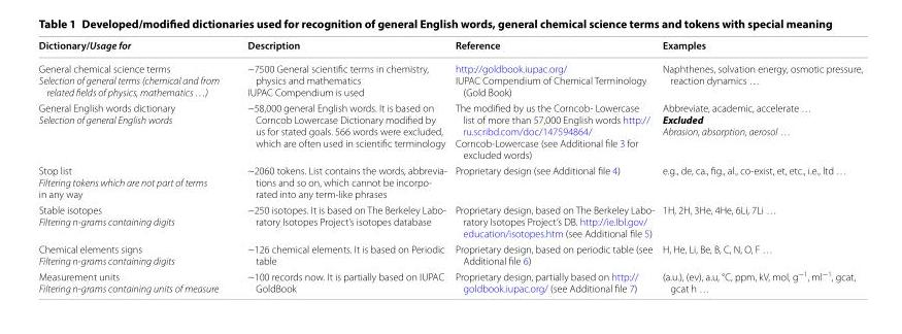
<table><thead><tr><td>Dictionary/Usage for</td><td>Description</td><td>Reference</td><td>Examples</td></tr></thead><tbody><tr><td>General chemical science terms Selection of general terms (chemical and from related fields of physics, mathematics …)</td><td>~7500 General scientific terms in chemistry, physics and mathematics IUPAC Compendium is used</td><td>http://goldbook.iupac.org/ IUPAC Compendium of Chemical Terminology (Gold Book)</td><td>Naphthenes, solvation energy, osmotic pressure, reaction dynamics …</td></tr><tr><td>General English words dictionary Selection of general English words</td><td>~58,000 general English words. It is based on Corncob Lowercase Dictionary modified by us for stated goals. 566 words were excluded, which are often used in scientific terminology</td><td>The modified by us the Corncob- Lowercase list of more than 57,000 English words http:// ru.scribd.com/doc/147594864/ Corncob-Lowercase (see Additional file 3 for excluded words)</td><td>Abbreviate, academic, accelerate … Excluded Abrasion, absorption, aerosol …</td></tr><tr><td>Stop list Filtering tokens which are not part of terms in any way</td><td>~2060 tokens. List contains the words, abbrevia- tions and so on, which cannot be incorpo- rated into any term-like phrases</td><td>Proprietary design (see Additional file 4)</td><td>e.g., de, ca., fig., al., co-exist, et, etc., i.e., ltd …</td></tr><tr><td>Stable isotopes Filtering n-grams containing digits</td><td>~250 isotopes. It is based on The Berkeley Labo- ratory Isotopes Project’s isotopes database</td><td>Proprietary design, based on The Berkeley Labo- ratory Isotopes Project’s DB. http://ie.lbl.gov/ education/isotopes.htm (see Additional file 5)</td><td>1H, 2H, 3He, 4He, 6Li, 7Li …</td></tr><tr><td>Chemical elements signs Filtering n-grams containing digits</td><td>~126 chemical elements. It is based on Periodic table</td><td>Proprietary design, based on periodic table (see Additional file 6)</td><td>H, He, Li, Be, B, C, N, O, F …</td></tr><tr><td>Measurement units Filtering n-grams containing units of measure</td><td>~100 records now. It is partially based on IUPAC GoldBook</td><td>Proprietary design, partially based on http:// goldbook.iupac.org/ (see Additional file 7)</td><td>(a.u.), (ev), a.u, °C, ppm, kV, mol, g<sup>−1</sup>, ml<sup>−1</sup>, gcat, gcat h …</td></tr></tbody></table>